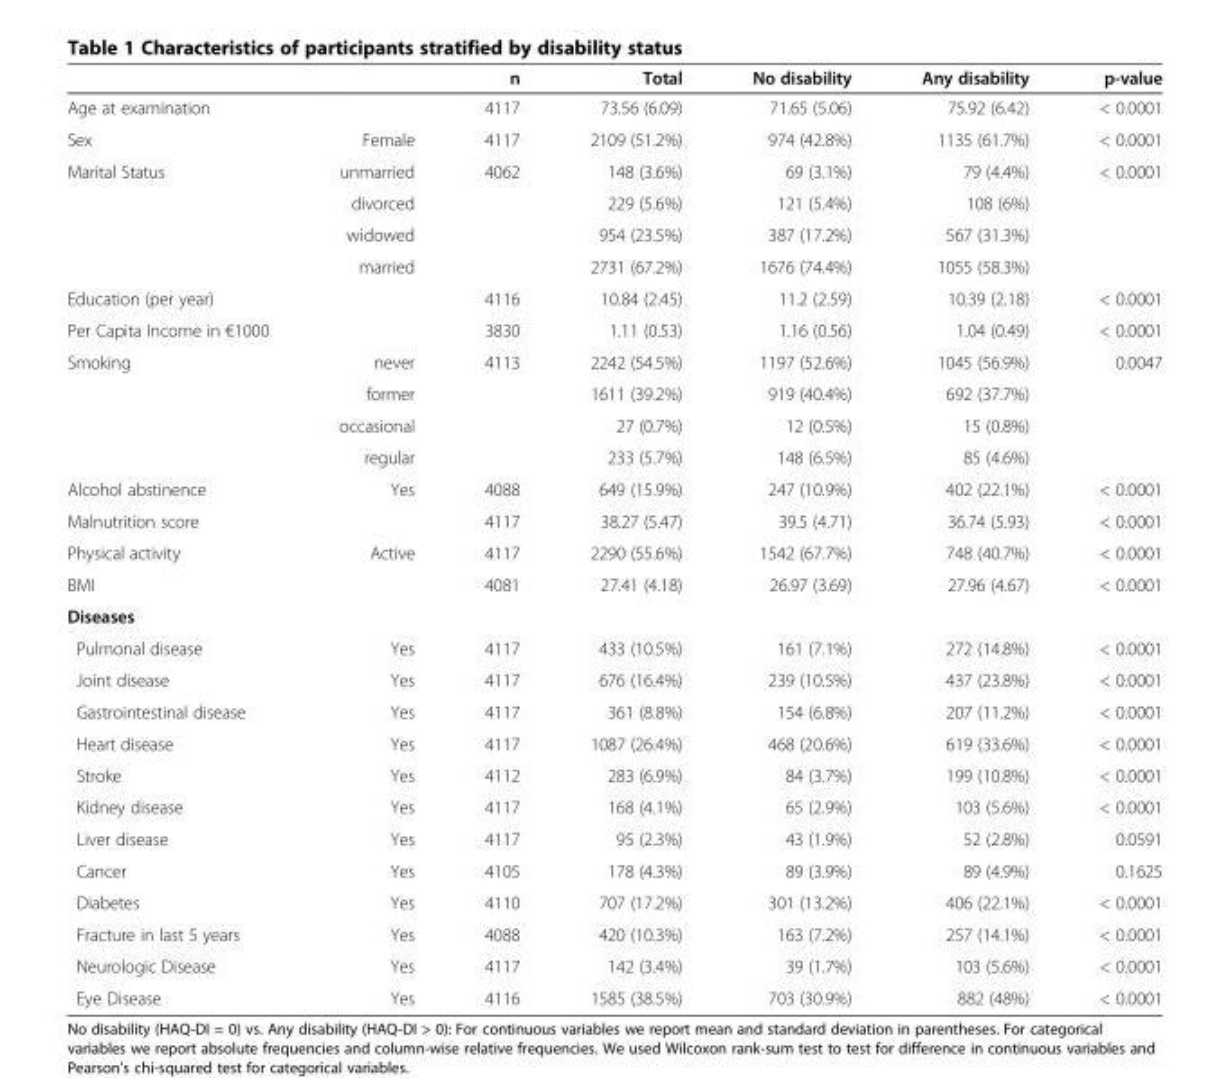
<table><thead><tr><td></td><td></td><td>n</td><td>Total</td><td>No disability</td><td>Any disability</td><td>p-value</td></tr></thead><tbody><tr><td>Age at examination</td><td></td><td>4117</td><td>73.56 (6.09)</td><td>71.65 (5.06)</td><td>75.92 (6.42)</td><td>&lt; 0.0001</td></tr><tr><td>Sex</td><td>Female</td><td>4117</td><td>2109 (51.2%)</td><td>974 (42.8%)</td><td>1135 (61.7%)</td><td>&lt; 0.0001</td></tr><tr><td rowspan="4">Marital Status</td><td>unmarried</td><td>4062</td><td>148 (3.6%)</td><td>69 (3.1%)</td><td>79 (4.4%)</td><td>&lt; 0.0001</td></tr><tr><td>divorced</td><td></td><td>229 (5.6%)</td><td>121 (5.4%)</td><td>108 (6%)</td><td></td></tr><tr><td>widowed</td><td></td><td>954 (23.5%)</td><td>387 (17.2%)</td><td>567 (31.3%)</td><td></td></tr><tr><td>married</td><td></td><td>2731 (67.2%)</td><td>1676 (74.4%)</td><td>1055 (58.3%)</td><td></td></tr><tr><td>Education (per year)</td><td></td><td>4116</td><td>10.84 (2.45)</td><td>11.2 (2.59)</td><td>10.39 (2.18)</td><td>&lt; 0.0001</td></tr><tr><td>Per Capita Income in €1000</td><td></td><td>3830</td><td>1.11 (0.53)</td><td>1.16 (0.56)</td><td>1.04 (0.49)</td><td>&lt; 0.0001</td></tr><tr><td rowspan="4">Smoking</td><td>never</td><td>4113</td><td>2242 (54.5%)</td><td>1197 (52.6%)</td><td>1045 (56.9%)</td><td>0.0047</td></tr><tr><td>former</td><td></td><td>1611 (39.2%)</td><td>919 (40.4%)</td><td>692 (37.7%)</td><td></td></tr><tr><td>occasional</td><td></td><td>27 (0.7%)</td><td>12 (0.5%)</td><td>15 (0.8%)</td><td></td></tr><tr><td>regular</td><td></td><td>233 (5.7%)</td><td>148 (6.5%)</td><td>85 (4.6%)</td><td></td></tr><tr><td>Alcohol abstinence</td><td>Yes</td><td>4088</td><td>649 (15.9%)</td><td>247 (10.9%)</td><td>402 (22.1%)</td><td>&lt; 0.0001</td></tr><tr><td>Malnutrition score</td><td></td><td>4117</td><td>38.27 (5.47)</td><td>39.5 (4.71)</td><td>36.74 (5.93)</td><td>&lt; 0.0001</td></tr><tr><td>Physical activity</td><td>Active</td><td>4117</td><td>2290 (55.6%)</td><td>1542 (67.7%)</td><td>748 (40.7%)</td><td>&lt; 0.0001</td></tr><tr><td>BMI</td><td></td><td>4081</td><td>27.41 (4.18)</td><td>26.97 (3.69)</td><td>27.96 (4.67)</td><td>&lt; 0.0001</td></tr><tr><td colspan="7">Diseases</td></tr><tr><td>Pulmonal disease</td><td>Yes</td><td>4117</td><td>433 (10.5%)</td><td>161 (7.1%)</td><td>272 (14.8%)</td><td>&lt; 0.0001</td></tr><tr><td>Joint disease</td><td>Yes</td><td>4117</td><td>676 (16.4%)</td><td>239 (10.5%)</td><td>437 (23.8%)</td><td>&lt; 0.0001</td></tr><tr><td>Gastrointestinal disease</td><td>Yes</td><td>4117</td><td>361 (8.8%)</td><td>154 (6.8%)</td><td>207 (11.2%)</td><td>&lt; 0.0001</td></tr><tr><td>Heart disease</td><td>Yes</td><td>4117</td><td>1087 (26.4%)</td><td>468 (20.6%)</td><td>619 (33.6%)</td><td>&lt; 0.0001</td></tr><tr><td>Stroke</td><td>Yes</td><td>4112</td><td>283 (6.9%)</td><td>84 (3.7%)</td><td>199 (10.8%)</td><td>&lt; 0.0001</td></tr><tr><td>Kidney disease</td><td>Yes</td><td>4117</td><td>168 (4.1%)</td><td>65 (2.9%)</td><td>103 (5.6%)</td><td>&lt; 0.0001</td></tr><tr><td>Liver disease</td><td>Yes</td><td>4117</td><td>95 (2.3%)</td><td>43 (1.9%)</td><td>52 (2.8%)</td><td>0.0591</td></tr><tr><td>Cancer</td><td>Yes</td><td>4105</td><td>178 (4.3%)</td><td>89 (3.9%)</td><td>89 (4.9%)</td><td>0.1625</td></tr><tr><td>Diabetes</td><td>Yes</td><td>4110</td><td>707 (17.2%)</td><td>301 (13.2%)</td><td>406 (22.1%)</td><td>&lt; 0.0001</td></tr><tr><td>Fracture in last 5 years</td><td>Yes</td><td>4088</td><td>420 (10.3%)</td><td>163 (7.2%)</td><td>257 (14.1%)</td><td>&lt; 0.0001</td></tr><tr><td>Neurologic Disease</td><td>Yes</td><td>4117</td><td>142 (3.4%)</td><td>39 (1.7%)</td><td>103 (5.6%)</td><td>&lt; 0.0001</td></tr><tr><td>Eye Disease</td><td>Yes</td><td>4116</td><td>1585 (38.5%)</td><td>703 (30.9%)</td><td>882 (48%)</td><td>&lt; 0.0001</td></tr></tbody></table>